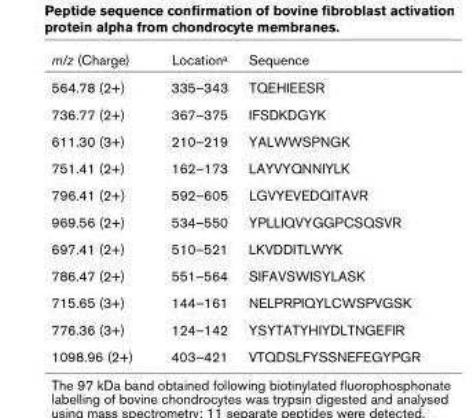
<table><thead><tr><td>m/z (Charge)</td><td>Locationa</td><td>Sequence</td></tr></thead><tbody><tr><td>564.78 (2+)</td><td>335–343</td><td>TQEHIEESR</td></tr><tr><td>736.77 (2+)</td><td>367–375</td><td>IFSDKDGYK</td></tr><tr><td>611.30 (3+)</td><td>210–219</td><td>YALWWSPNGK</td></tr><tr><td>751.41 (2+)</td><td>162–173</td><td>LAYVYQNNIYLK</td></tr><tr><td>796.41 (2+)</td><td>592–605</td><td>LGVYEVEDQITAVR</td></tr><tr><td>969.56 (2+)</td><td>534–550</td><td>YPLLIQVYGGPCSQSVR</td></tr><tr><td>697.41 (2+)</td><td>510–521</td><td>LKVDDITLWYK</td></tr><tr><td>786.47 (2+)</td><td>551–564</td><td>SIFAVSWISYLASK</td></tr><tr><td>715.65 (3+)</td><td>144–161</td><td>NELPRPIQYLCWSPVGSK</td></tr><tr><td>776.36 (3+)</td><td>124–142</td><td>YSYTATYHIYDLTNGEFIR</td></tr><tr><td>1098.96 (2+)</td><td>403–421</td><td>VTQDSLFYSSNEFEGYPGR</td></tr></tbody></table>